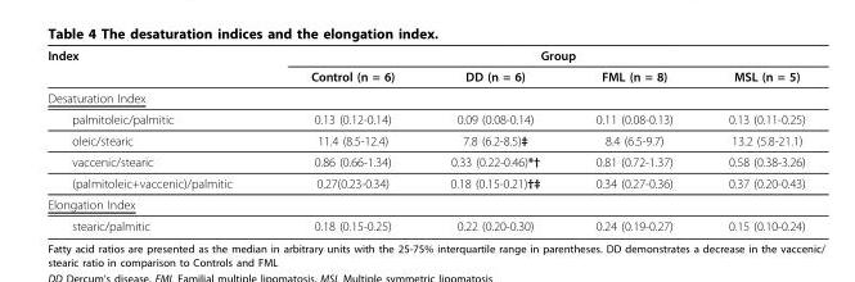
<table><thead><tr><td rowspan="2">Index</td><td colspan="4">Group</td></tr><tr><td>Control (n = 6)</td><td>DD (n = 6)</td><td>FML (n = 8)</td><td>MSL (n = 5)</td></tr></thead><tbody><tr><td colspan="5">Desaturation Index</td></tr><tr><td>palmitoleic/palmitic</td><td>0.13 (0.12-0.14)</td><td>0.09 (0.08-0.14)</td><td>0.11 (0.08-0.13)</td><td>0.13 (0.11-0.25)</td></tr><tr><td>oleic/stearic</td><td>11.4 (8.5-12.4)</td><td>7.8 (6.2-8.5)‡</td><td>8.4 (6.5-9.7)</td><td>13.2 (5.8-21.1)</td></tr><tr><td>vaccenic/stearic</td><td>0.86 (0.66-1.34)</td><td>0.33 (0.22-0.46)*†</td><td>0.81 (0.72-1.37)</td><td>0.58 (0.38-3.26)</td></tr><tr><td>(palmitoleic+vaccenic)/palmitic</td><td>0.27(0.23-0.34)</td><td>0.18 (0.15-0.21)†‡</td><td>0.34 (0.27-0.36)</td><td>0.37 (0.20-0.43)</td></tr><tr><td colspan="5">Elongation Index</td></tr><tr><td>stearic/palmitic</td><td>0.18 (0.15-0.25)</td><td>0.22 (0.20-0.30)</td><td>0.24 (0.19-0.27)</td><td>0.15 (0.10-0.24)</td></tr></tbody></table>